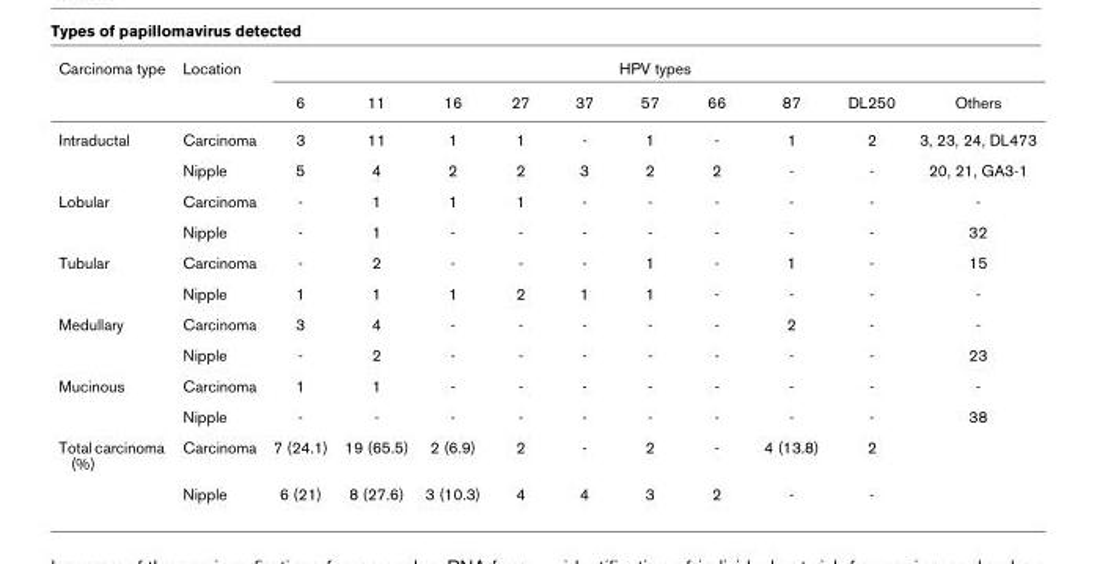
<table><thead><tr><td rowspan="2">Carcinoma type</td><td rowspan="2">Location</td><td colspan="10">HPV types</td></tr><tr><td>6</td><td>11</td><td>16</td><td>27</td><td>37</td><td>57</td><td>66</td><td>87</td><td>DL250</td><td>Others</td></tr></thead><tbody><tr><td rowspan="2">Intraductal</td><td>Carcinoma</td><td>3</td><td>11</td><td>1</td><td>1</td><td>-</td><td>1</td><td>-</td><td>1</td><td>2</td><td>3, 23, 24, DL473</td></tr><tr><td>Nipple</td><td>5</td><td>4</td><td>2</td><td>2</td><td>3</td><td>2</td><td>2</td><td>-</td><td>-</td><td>20, 21, GA3-1</td></tr><tr><td rowspan="2">Lobular</td><td>Carcinoma</td><td>-</td><td>1</td><td>1</td><td>1</td><td>-</td><td>-</td><td>-</td><td>-</td><td>-</td><td>-</td></tr><tr><td>Nipple</td><td>-</td><td>1</td><td>-</td><td>-</td><td>-</td><td>-</td><td>-</td><td>-</td><td>-</td><td>32</td></tr><tr><td rowspan="2">Tubular</td><td>Carcinoma</td><td>-</td><td>2</td><td>-</td><td>-</td><td>-</td><td>1</td><td>-</td><td>1</td><td>-</td><td>15</td></tr><tr><td>Nipple</td><td>1</td><td>1</td><td>1</td><td>2</td><td>1</td><td>1</td><td>-</td><td>-</td><td>-</td><td>-</td></tr><tr><td rowspan="2">Medullary</td><td>Carcinoma</td><td>3</td><td>4</td><td>-</td><td>-</td><td>-</td><td>-</td><td>-</td><td>2</td><td>-</td><td>-</td></tr><tr><td>Nipple</td><td>-</td><td>2</td><td>-</td><td>-</td><td>-</td><td>-</td><td>-</td><td>-</td><td>-</td><td>23</td></tr><tr><td rowspan="2">Mucinous</td><td>Carcinoma</td><td>1</td><td>1</td><td>-</td><td>-</td><td>-</td><td>-</td><td>-</td><td>-</td><td>-</td><td>-</td></tr><tr><td>Nipple</td><td>-</td><td>-</td><td>-</td><td>-</td><td>-</td><td>-</td><td>-</td><td>-</td><td>-</td><td>38</td></tr><tr><td rowspan="2">Total carcinoma (%)</td><td>Carcinoma</td><td>7 (24.1)</td><td>19 (65.5)</td><td>2 (6.9)</td><td>2</td><td>-</td><td>2</td><td>-</td><td>4 (13.8)</td><td>2</td><td></td></tr><tr><td>Nipple</td><td>6 (21)</td><td>8 (27.6)</td><td>3 (10.3)</td><td>4</td><td>4</td><td>3</td><td>2</td><td>-</td><td>-</td><td></td></tr></tbody></table>